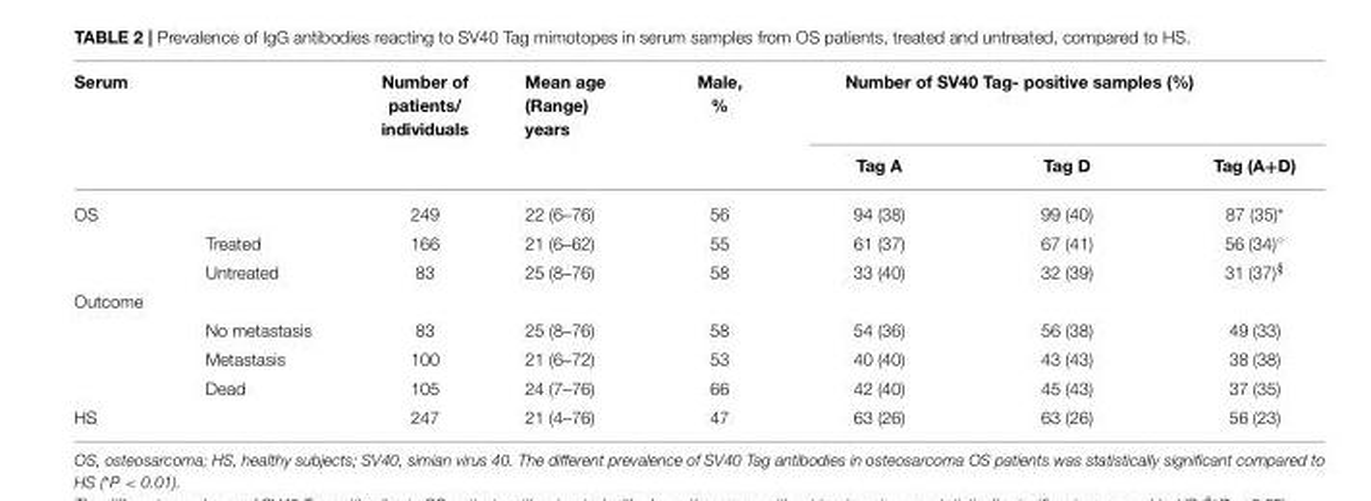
<table><thead><tr><td rowspan="2">Serum</td><td rowspan="2"></td><td rowspan="2">Number of patients/ individuals</td><td rowspan="2">Mean age (Range) years</td><td rowspan="2">Male, %</td><td colspan="3">Number of SV40 Tag- positive samples (%)</td></tr><tr><td>Tag A</td><td>Tag D</td><td>Tag (A+D)</td></tr></thead><tbody><tr><td rowspan="3">OS</td><td></td><td>249</td><td>22 (6–76)</td><td>56</td><td>94 (38)</td><td>99 (40)</td><td>87 (35)*</td></tr><tr><td>Treated</td><td>166</td><td>21 (6–62)</td><td>55</td><td>61 (37)</td><td>67 (41)</td><td>56 (34)◦</td></tr><tr><td>Untreated</td><td>83</td><td>25 (8–76)</td><td>58</td><td>33 (40)</td><td>32 (39)</td><td>31 (37)<sup>§</sup></td></tr><tr><td colspan="8">Outcome</td></tr><tr><td></td><td>No metastasis</td><td>83</td><td>25 (8–76)</td><td>58</td><td>54 (36)</td><td>56 (38)</td><td>49 (33)</td></tr><tr><td></td><td>Metastasis</td><td>100</td><td>21 (6–72)</td><td>53</td><td>40 (40)</td><td>43 (43)</td><td>38 (38)</td></tr><tr><td></td><td>Dead</td><td>105</td><td>24 (7–76)</td><td>66</td><td>42 (40)</td><td>45 (43)</td><td>37 (35)</td></tr><tr><td>HS</td><td></td><td>247</td><td>21 (4–76)</td><td>47</td><td>63 (26)</td><td>63 (26)</td><td>56 (23)</td></tr></tbody></table>